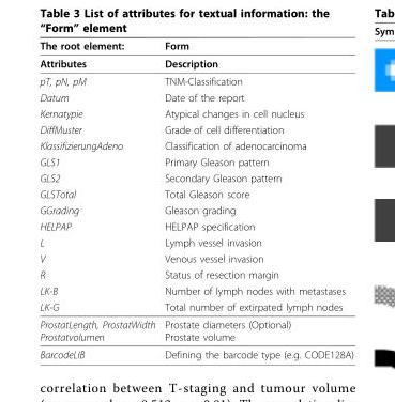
<table><thead><tr><td>The root element:</td><td>Form</td></tr></thead><tbody><tr><td>Attributes</td><td>Description</td></tr><tr><td>pT, pN, pM</td><td>TNM-Classification</td></tr><tr><td>Datum</td><td>Date of the report</td></tr><tr><td>Kernatypie</td><td>Atypical changes in cell nucleus</td></tr><tr><td>DiffMuster</td><td>Grade of cell differentiation</td></tr><tr><td>KlassifizierungAdeno</td><td>Classification of adenocarcinoma</td></tr><tr><td>GLS1</td><td>Primary Gleason pattern</td></tr><tr><td>GLS2</td><td>Secondary Gleason pattern</td></tr><tr><td>GLSTotal</td><td>Total Gleason score</td></tr><tr><td>GGrading</td><td>Gleason grading</td></tr><tr><td>HELPAP</td><td>HELPAP specification</td></tr><tr><td>L</td><td>Lymph vessel invasion</td></tr><tr><td>V</td><td>Venous vessel invasion</td></tr><tr><td>R</td><td>Status of resection margin</td></tr><tr><td>LK-B</td><td>Number of lymph nodes with metastases</td></tr><tr><td>LK-G</td><td>Total number of extirpated lymph nodes</td></tr><tr><td>ProstatLength, ProstatWidth Prostatvolumen</td><td>Prostate diameters (Optional) Prostate volume</td></tr><tr><td>BarcodeLIB</td><td>Defining the barcode type (e.g. CODE128A)</td></tr></tbody></table>